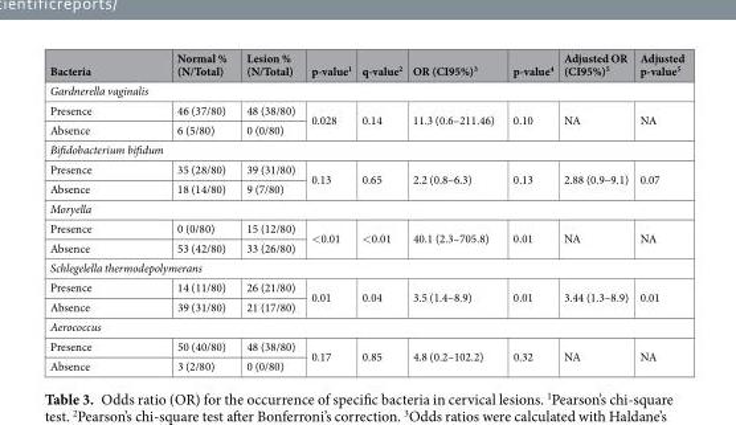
<table><thead><tr><td>Bacteria</td><td>Normal % (N/Total)</td><td>Lesion % (N/Total)</td><td>p-value<sup>1</sup></td><td>q-value<sup>2</sup></td><td>OR (CI95%)<sup>3</sup></td><td>p-value<sup>4</sup></td><td>Adjusted OR (CI95%)<sup>5</sup></td><td>Adjusted p-value<sup>5</sup></td></tr></thead><tbody><tr><td colspan="9">Gardnerella vaginalis</td></tr><tr><td>Presence</td><td>46 (37/80)</td><td>48 (38/80)</td><td rowspan="2">0.028</td><td rowspan="2">0.14</td><td rowspan="2">11.3 (0.6–211.46)</td><td rowspan="2">0.10</td><td rowspan="2">NA</td><td rowspan="2">NA</td></tr><tr><td>Absence</td><td>6 (5/80)</td><td>0 (0/80)</td></tr><tr><td colspan="9">Bifidobacterium bifidum</td></tr><tr><td>Presence</td><td>35 (28/80)</td><td>39 (31/80)</td><td rowspan="2">0.13</td><td rowspan="2">0.65</td><td rowspan="2">2.2 (0.8–6.3)</td><td rowspan="2">0.13</td><td rowspan="2">2.88 (0.9–9.1)</td><td rowspan="2">0.07</td></tr><tr><td>Absence</td><td>18 (14/80)</td><td>9 (7/80)</td></tr><tr><td colspan="9">Moryella</td></tr><tr><td>Presence</td><td>0 (0/80)</td><td>15 (12/80)</td><td rowspan="2">&lt;0.01</td><td rowspan="2">&lt;0.01</td><td rowspan="2">40.1 (2.3–705.8)</td><td rowspan="2">0.01</td><td rowspan="2">NA</td><td rowspan="2">NA</td></tr><tr><td>Absence</td><td>53 (42/80)</td><td>33 (26/80)</td></tr><tr><td colspan="9">Schlegelella thermodepolymerans</td></tr><tr><td>Presence</td><td>14 (11/80)</td><td>26 (21/80)</td><td rowspan="2">0.01</td><td rowspan="2">0.04</td><td rowspan="2">3.5 (1.4–8.9)</td><td rowspan="2">0.01</td><td rowspan="2">3.44 (1.3–8.9)</td><td rowspan="2">0.01</td></tr><tr><td>Absence</td><td>39 (31/80)</td><td>21 (17/80)</td></tr><tr><td colspan="9">Aerococcus</td></tr><tr><td>Presence</td><td>50 (40/80)</td><td>48 (38/80)</td><td rowspan="2">0.17</td><td rowspan="2">0.85</td><td rowspan="2">4.8 (0.2–102.2)</td><td rowspan="2">0.32</td><td rowspan="2">NA</td><td rowspan="2">NA</td></tr><tr><td>Absence</td><td>3 (2/80)</td><td>0 (0/80)</td></tr></tbody></table>